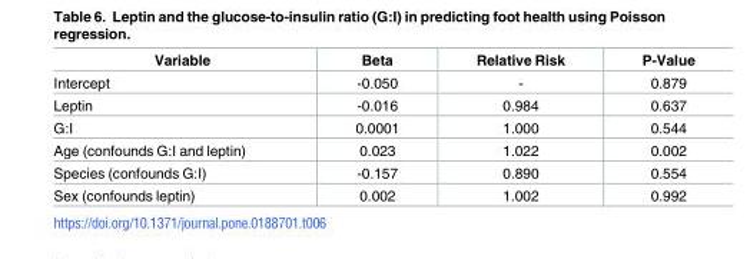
<table><thead><tr><td>Variable</td><td>Beta</td><td>Relative Risk</td><td>P-Value</td></tr></thead><tbody><tr><td>Intercept</td><td>-0.050</td><td>-</td><td>0.879</td></tr><tr><td>Leptin</td><td>-0.016</td><td>0.984</td><td>0.637</td></tr><tr><td>G:I</td><td>0.0001</td><td>1.000</td><td>0.544</td></tr><tr><td>Age (confounds G:I and leptin)</td><td>0.023</td><td>1.022</td><td>0.002</td></tr><tr><td>Species (confounds G:I)</td><td>-0.157</td><td>0.890</td><td>0.554</td></tr><tr><td>Sex (confounds leptin)</td><td>0.002</td><td>1.002</td><td>0.992</td></tr></tbody></table>